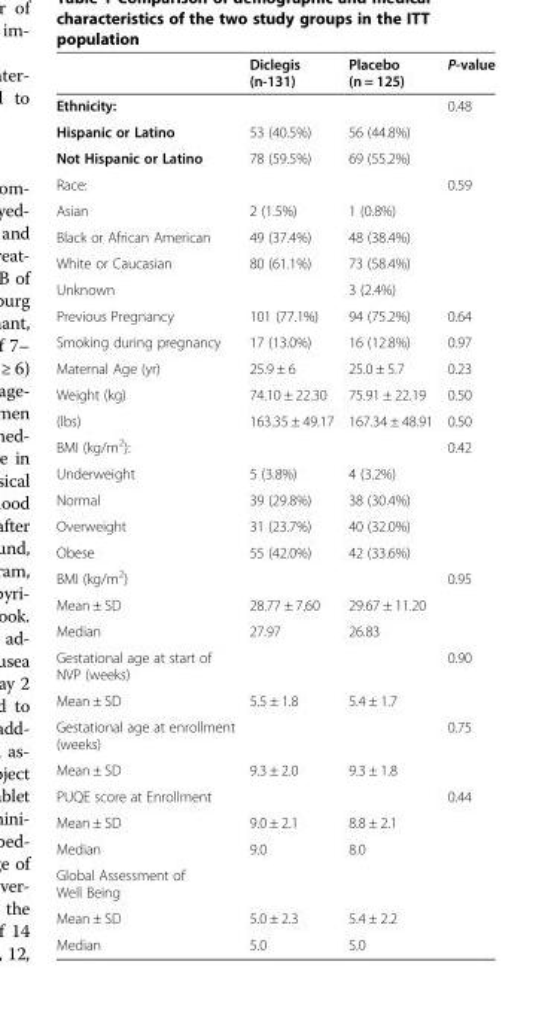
<table><thead><tr><td></td><td>Diclegis (n-131)</td><td>Placebo (n = 125)</td><td>P-value</td></tr></thead><tbody><tr><td>Ethnicity:</td><td></td><td></td><td>0.48</td></tr><tr><td>Hispanic or Latino</td><td>53 (40.5%)</td><td>56 (44.8%)</td><td></td></tr><tr><td>Not Hispanic or Latino</td><td>78 (59.5%)</td><td>69 (55.2%)</td><td></td></tr><tr><td>Race:</td><td></td><td></td><td>0.59</td></tr><tr><td>Asian</td><td>2 (1.5%)</td><td>1 (0.8%)</td><td></td></tr><tr><td>Black or African American</td><td>49 (37.4%)</td><td>48 (38.4%)</td><td></td></tr><tr><td>White or Caucasian</td><td>80 (61.1%)</td><td>73 (58.4%)</td><td></td></tr><tr><td>Unknown</td><td></td><td>3 (2.4%)</td><td></td></tr><tr><td>Previous Pregnancy</td><td>101 (77.1%)</td><td>94 (75.2%)</td><td>0.64</td></tr><tr><td>Smoking during pregnancy</td><td>17 (13.0%)</td><td>16 (12.8%)</td><td>0.97</td></tr><tr><td>Maternal Age (yr)</td><td>25.9 ± 6</td><td>25.0 ± 5.7</td><td>0.23</td></tr><tr><td>Weight (kg)</td><td>74.10 ± 22.30</td><td>75.91 ± 22.19</td><td>0.50</td></tr><tr><td>(lbs)</td><td>163.35 ± 49.17</td><td>167.34 ± 48.91</td><td>0.50</td></tr><tr><td>BMI (kg/m<sup>2</sup>):</td><td></td><td></td><td>0.42</td></tr><tr><td>Underweight</td><td>5 (3.8%)</td><td>4 (3.2%)</td><td></td></tr><tr><td>Normal</td><td>39 (29.8%)</td><td>38 (30.4%)</td><td></td></tr><tr><td>Overweight</td><td>31 (23.7%)</td><td>40 (32.0%)</td><td></td></tr><tr><td>Obese</td><td>55 (42.0%)</td><td>42 (33.6%)</td><td></td></tr><tr><td>BMI (kg/m<sup>2</sup>)</td><td></td><td></td><td>0.95</td></tr><tr><td>Mean ± SD</td><td>28.77 ± 7.60</td><td>29.67 ± 11.20</td><td></td></tr><tr><td>Median</td><td>27.97</td><td>26.83</td><td></td></tr><tr><td>Gestational age at start of NVP (weeks)</td><td></td><td></td><td>0.90</td></tr><tr><td>Mean ± SD</td><td>5.5 ± 1.8</td><td>5.4 ± 1.7</td><td></td></tr><tr><td>Gestational age at enrollment (weeks)</td><td></td><td></td><td>0.75</td></tr><tr><td>Mean ± SD</td><td>9.3 ± 2.0</td><td>9.3 ± 1.8</td><td></td></tr><tr><td>PUQE score at Enrollment</td><td></td><td></td><td>0.44</td></tr><tr><td>Mean ± SD</td><td>9.0 ± 2.1</td><td>8.8 ± 2.1</td><td></td></tr><tr><td>Median</td><td>9.0</td><td>8.0</td><td></td></tr><tr><td colspan="4">Global Assessment of Well Being</td></tr><tr><td>Mean ± SD</td><td>5.0 ± 2.3</td><td>5.4 ± 2.2</td><td></td></tr><tr><td>Median</td><td>5.0</td><td>5.0</td><td></td></tr></tbody></table>